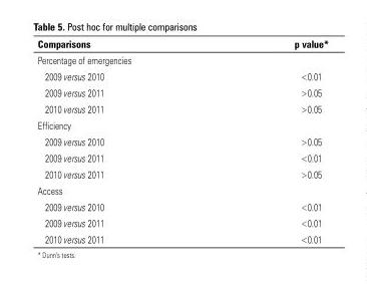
<table><thead><tr><td>Comparisons</td><td>p value*</td></tr></thead><tbody><tr><td colspan="2">Percentage of emergencies</td></tr><tr><td>2009 versus 2010</td><td>&lt;0.01</td></tr><tr><td>2009 versus 2011</td><td>&gt;0.05</td></tr><tr><td>2010 versus 2011</td><td>&gt;0.05</td></tr><tr><td colspan="2">Efficiency</td></tr><tr><td>2009 versus 2010</td><td>&gt;0.05</td></tr><tr><td>2009 versus 2011</td><td>&lt;0.01</td></tr><tr><td>2010 versus 2011</td><td>&gt;0.05</td></tr><tr><td colspan="2">Access</td></tr><tr><td>2009 versus 2010</td><td>&lt;0.01</td></tr><tr><td>2009 versus 2011</td><td>&lt;0.01</td></tr><tr><td>2010 versus 2011</td><td>&lt;0.01</td></tr></tbody></table>